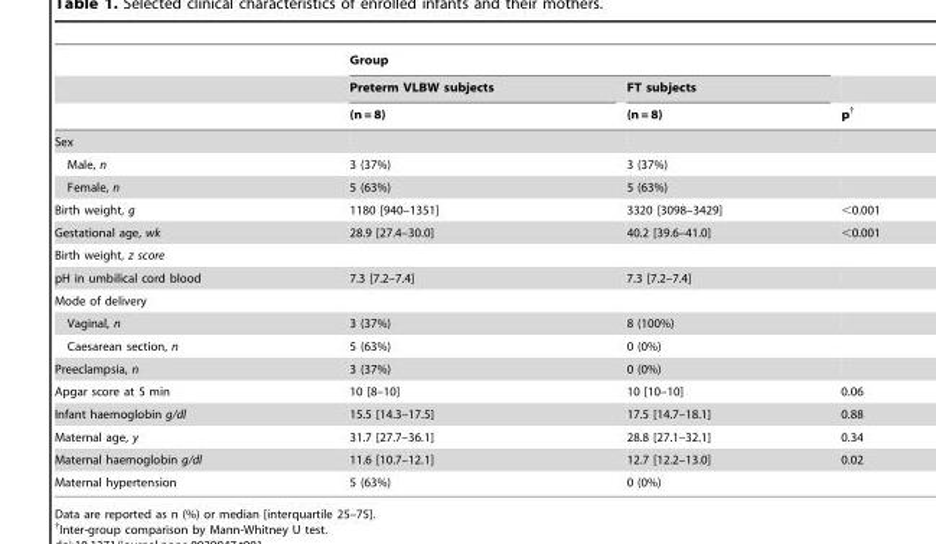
<table><thead><tr><td rowspan="3"></td><td colspan="2">Group</td><td rowspan="3">p†</td></tr><tr><td rowspan="2">Preterm VLBW subjects (n = 8)</td><td rowspan="2">FT subjects (n = 8)</td></tr><tr></tr></thead><tbody><tr><td colspan="4">Sex</td></tr><tr><td>Male, n</td><td>3 (37%)</td><td>3 (37%)</td><td></td></tr><tr><td>Female, n</td><td>5 (63%)</td><td>5 (63%)</td><td></td></tr><tr><td>Birth weight, g</td><td>1180 [940–1351]</td><td>3320 [3098–3429]</td><td>&lt;0.001</td></tr><tr><td>Gestational age, wk</td><td>28.9 [27.4–30.0]</td><td>40.2 [39.6–41.0]</td><td>&lt;0.001</td></tr><tr><td colspan="4">Birth weight, z score</td></tr><tr><td>pH in umbilical cord blood</td><td>7.3 [7.2–7.4]</td><td>7.3 [7.2–7.4]</td><td></td></tr><tr><td colspan="4">Mode of delivery</td></tr><tr><td>Vaginal, n</td><td>3 (37%)</td><td>8 (100%)</td><td></td></tr><tr><td>Caesarean section, n</td><td>5 (63%)</td><td>0 (0%)</td><td></td></tr><tr><td>Preeclampsia, n</td><td>3 (37%)</td><td>0 (0%)</td><td></td></tr><tr><td>Apgar score at 5 min</td><td>10 [8–10]</td><td>10 [10–10]</td><td>0.06</td></tr><tr><td>Infant haemoglobin g/dl</td><td>15.5 [14.3–17.5]</td><td>17.5 [14.7–18.1]</td><td>0.88</td></tr><tr><td>Maternal age, y</td><td>31.7 [27.7–36.1]</td><td>28.8 [27.1–32.1]</td><td>0.34</td></tr><tr><td>Maternal haemoglobin g/dl</td><td>11.6 [10.7–12.1]</td><td>12.7 [12.2–13.0]</td><td>0.02</td></tr><tr><td>Maternal hypertension</td><td>5 (63%)</td><td>0 (0%)</td><td></td></tr></tbody></table>